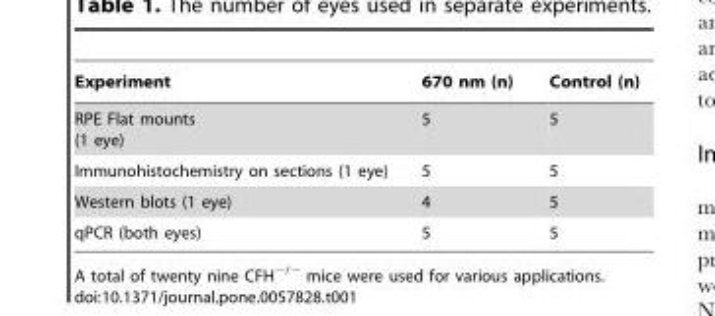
<table><thead><tr><td>Experiment</td><td>670 nm (n)</td><td>Control (n)</td></tr></thead><tbody><tr><td>RPE Flat mounts (1 eye)</td><td>5</td><td>5</td></tr><tr><td>Immunohistochemistry on sections (1 eye)</td><td>5</td><td>5</td></tr><tr><td>Western blots (1 eye)</td><td>4</td><td>5</td></tr><tr><td>qPCR (both eyes)</td><td>5</td><td>5</td></tr></tbody></table>